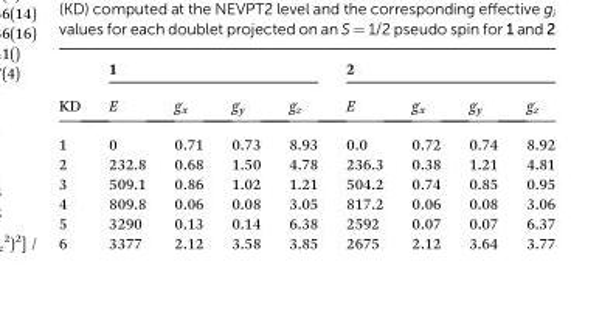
<table><thead><tr><td rowspan="2">KD</td><td colspan="4">1</td><td colspan="4">2</td></tr><tr><td>E</td><td>gx</td><td>gy</td><td>gz</td><td>E</td><td>gx</td><td>gy</td><td>gz</td></tr></thead><tbody><tr><td>1</td><td>0</td><td>0.71</td><td>0.73</td><td>8.93</td><td>0.0</td><td>0.72</td><td>0.74</td><td>8.92</td></tr><tr><td>2</td><td>232.8</td><td>0.68</td><td>1.50</td><td>4.78</td><td>236.3</td><td>0.38</td><td>1.21</td><td>4.81</td></tr><tr><td>3</td><td>509.1</td><td>0.86</td><td>1.02</td><td>1.21</td><td>504.2</td><td>0.74</td><td>0.85</td><td>0.95</td></tr><tr><td>4</td><td>809.8</td><td>0.06</td><td>0.08</td><td>3.05</td><td>817.2</td><td>0.06</td><td>0.08</td><td>3.06</td></tr><tr><td>5</td><td>3290</td><td>0.13</td><td>0.14</td><td>6.38</td><td>2592</td><td>0.07</td><td>0.07</td><td>6.37</td></tr><tr><td>6</td><td>3377</td><td>2.12</td><td>3.58</td><td>3.85</td><td>2675</td><td>2.12</td><td>3.64</td><td>3.77</td></tr></tbody></table>